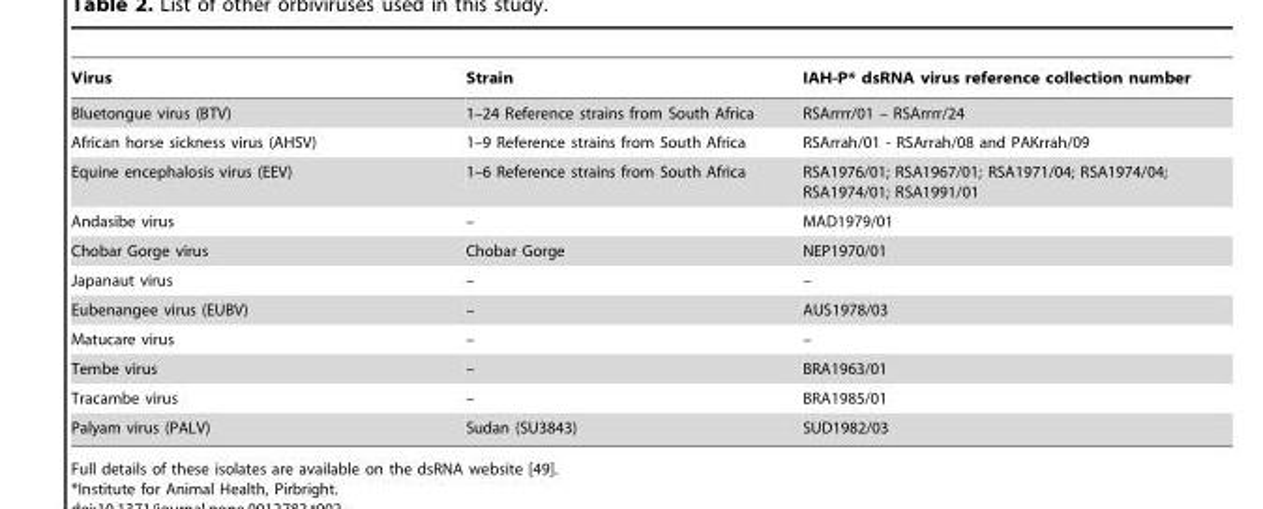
<table><thead><tr><td>Virus</td><td>Strain</td><td>IAH-P* dsRNA virus reference collection number</td></tr></thead><tbody><tr><td>Bluetongue virus (BTV)</td><td>1–24 Reference strains from South Africa</td><td>RSArrrr/01 – RSArrrr/24</td></tr><tr><td>African horse sickness virus (AHSV)</td><td>1–9 Reference strains from South Africa</td><td>RSArrah/01 - RSArrah/08 and PAKrrah/09</td></tr><tr><td>Equine encephalosis virus (EEV)</td><td>1–6 Reference strains from South Africa</td><td>RSA1976/01; RSA1967/01; RSA1971/04; RSA1974/04; RSA1974/01; RSA1991/01</td></tr><tr><td>Andasibe virus</td><td>–</td><td>MAD1979/01</td></tr><tr><td>Chobar Gorge virus</td><td>Chobar Gorge</td><td>NEP1970/01</td></tr><tr><td>Japanaut virus</td><td>–</td><td>–</td></tr><tr><td>Eubenangee virus (EUBV)</td><td>–</td><td>AUS1978/03</td></tr><tr><td>Matucare virus</td><td>–</td><td>–</td></tr><tr><td>Tembe virus</td><td>–</td><td>BRA1963/01</td></tr><tr><td>Tracambe virus</td><td>–</td><td>BRA1985/01</td></tr><tr><td>Palyam virus (PALV)</td><td>Sudan (SU3843)</td><td>SUD1982/03</td></tr></tbody></table>